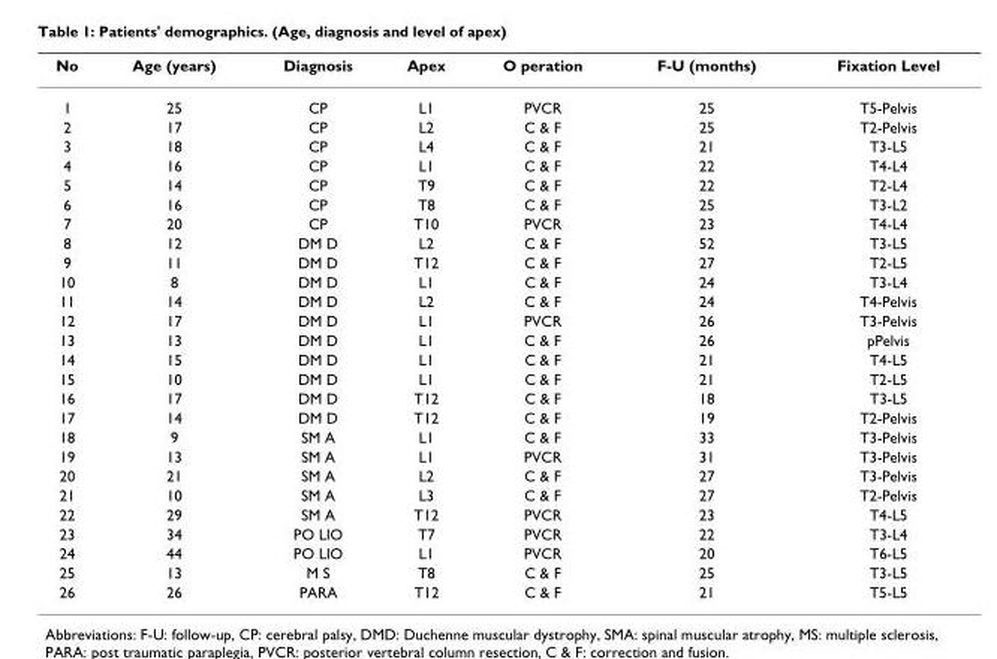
<table><thead><tr><td>No</td><td>Age (years)</td><td>Diagnosis</td><td>Apex</td><td>O peration</td><td>F-U (months)</td><td>Fixation Level</td></tr></thead><tbody><tr><td>1</td><td>25</td><td>CP</td><td>L1</td><td>PVCR</td><td>25</td><td>T5-Pelvis</td></tr><tr><td>2</td><td>17</td><td>CP</td><td>L2</td><td>C &amp; F</td><td>25</td><td>T2-Pelvis</td></tr><tr><td>3</td><td>18</td><td>CP</td><td>L4</td><td>C &amp; F</td><td>21</td><td>T3-L5</td></tr><tr><td>4</td><td>16</td><td>CP</td><td>L1</td><td>C &amp; F</td><td>22</td><td>T4-L4</td></tr><tr><td>5</td><td>14</td><td>CP</td><td>T9</td><td>C &amp; F</td><td>22</td><td>T2-L4</td></tr><tr><td>6</td><td>16</td><td>CP</td><td>T8</td><td>C &amp; F</td><td>25</td><td>T3-L2</td></tr><tr><td>7</td><td>20</td><td>CP</td><td>T10</td><td>PVCR</td><td>23</td><td>T4-L4</td></tr><tr><td>8</td><td>12</td><td>DM D</td><td>L2</td><td>C &amp; F</td><td>52</td><td>T3-L5</td></tr><tr><td>9</td><td>11</td><td>DM D</td><td>T12</td><td>C &amp; F</td><td>27</td><td>T2-L5</td></tr><tr><td>10</td><td>8</td><td>DM D</td><td>L1</td><td>C &amp; F</td><td>24</td><td>T3-L4</td></tr><tr><td>11</td><td>14</td><td>DM D</td><td>L2</td><td>C &amp; F</td><td>24</td><td>T4-Pelvis</td></tr><tr><td>12</td><td>17</td><td>DM D</td><td>L1</td><td>PVCR</td><td>26</td><td>T3-Pelvis</td></tr><tr><td>13</td><td>13</td><td>DM D</td><td>L1</td><td>C &amp; F</td><td>26</td><td>pPelvis</td></tr><tr><td>14</td><td>15</td><td>DM D</td><td>L1</td><td>C &amp; F</td><td>21</td><td>T4-L5</td></tr><tr><td>15</td><td>10</td><td>DM D</td><td>L1</td><td>C &amp; F</td><td>21</td><td>T2-L5</td></tr><tr><td>16</td><td>17</td><td>DM D</td><td>T12</td><td>C &amp; F</td><td>18</td><td>T3-L5</td></tr><tr><td>17</td><td>14</td><td>DM D</td><td>T12</td><td>C &amp; F</td><td>19</td><td>T2-Pelvis</td></tr><tr><td>18</td><td>9</td><td>SM A</td><td>L1</td><td>C &amp; F</td><td>33</td><td>T3-Pelvis</td></tr><tr><td>19</td><td>13</td><td>SM A</td><td>L1</td><td>PVCR</td><td>31</td><td>T3-Pelvis</td></tr><tr><td>20</td><td>21</td><td>SM A</td><td>L2</td><td>C &amp; F</td><td>27</td><td>T3-Pelvis</td></tr><tr><td>21</td><td>10</td><td>SM A</td><td>L3</td><td>C &amp; F</td><td>27</td><td>T2-Pelvis</td></tr><tr><td>22</td><td>29</td><td>SM A</td><td>T12</td><td>PVCR</td><td>23</td><td>T4-L5</td></tr><tr><td>23</td><td>34</td><td>PO LIO</td><td>T7</td><td>PVCR</td><td>22</td><td>T3-L4</td></tr><tr><td>24</td><td>44</td><td>PO LIO</td><td>L1</td><td>PVCR</td><td>20</td><td>T6-L5</td></tr><tr><td>25</td><td>13</td><td>M S</td><td>T8</td><td>C &amp; F</td><td>25</td><td>T3-L5</td></tr><tr><td>26</td><td>26</td><td>PARA</td><td>T12</td><td>C &amp; F</td><td>21</td><td>T5-L5</td></tr></tbody></table>